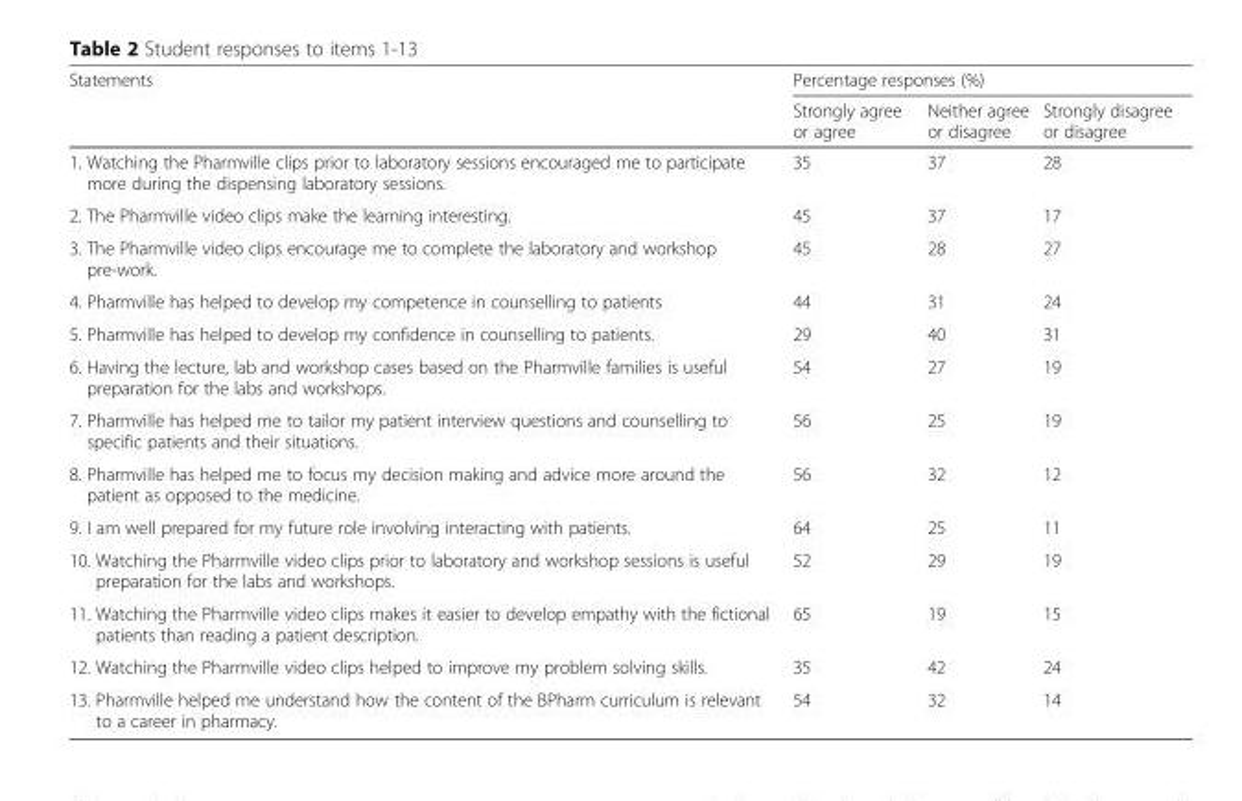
<table><thead><tr><td rowspan="2">Statements</td><td colspan="3">Percentage responses (%)</td></tr><tr><td>Strongly agree or agree</td><td>Neither agree or disagree</td><td>Strongly disagree or disagree</td></tr></thead><tbody><tr><td>1. Watching the Pharmville clips prior to laboratory sessions encouraged me to participate more during the dispensing laboratory sessions.</td><td>35</td><td>37</td><td>28</td></tr><tr><td>2. The Pharmville video clips make the learning interesting.</td><td>45</td><td>37</td><td>17</td></tr><tr><td>3. The Pharmville video clips encourage me to complete the laboratory and workshop pre-work.</td><td>45</td><td>28</td><td>27</td></tr><tr><td>4. Pharmville has helped to develop my competence in counselling to patients</td><td>44</td><td>31</td><td>24</td></tr><tr><td>5. Pharmville has helped to develop my confidence in counselling to patients.</td><td>29</td><td>40</td><td>31</td></tr><tr><td>6. Having the lecture, lab and workshop cases based on the Pharmville families is useful preparation for the labs and workshops.</td><td>54</td><td>27</td><td>19</td></tr><tr><td>7. Pharmville has helped me to tailor my patient interview questions and counselling to specific patients and their situations.</td><td>56</td><td>25</td><td>19</td></tr><tr><td>8. Pharmville has helped me to focus my decision making and advice more around the patient as opposed to the medicine.</td><td>56</td><td>32</td><td>12</td></tr><tr><td>9. I am well prepared for my future role involving interacting with patients.</td><td>64</td><td>25</td><td>11</td></tr><tr><td>10. Watching the Pharmville video clips prior to laboratory and workshop sessions is useful preparation for the labs and workshops.</td><td>52</td><td>29</td><td>19</td></tr><tr><td>11. Watching the Pharmville video clips makes it easier to develop empathy with the fictional patients than reading a patient description.</td><td>65</td><td>19</td><td>15</td></tr><tr><td>12. Watching the Pharmville video clips helped to improve my problem solving skills.</td><td>35</td><td>42</td><td>24</td></tr><tr><td>13. Pharmville helped me understand how the content of the BPharm curriculum is relevant to a career in pharmacy.</td><td>54</td><td>32</td><td>14</td></tr></tbody></table>